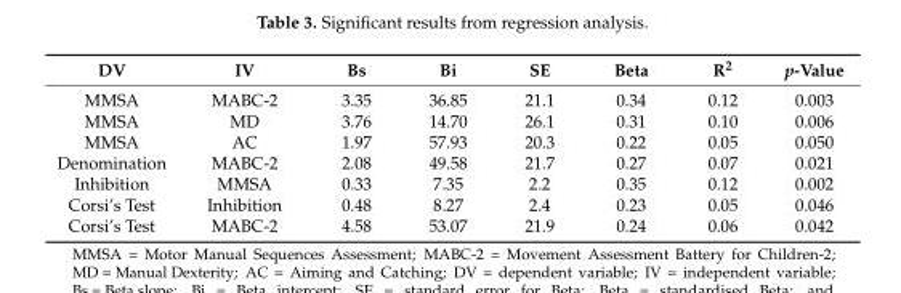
<table><thead><tr><td>DV</td><td>IV</td><td>Bs</td><td>Bi</td><td>SE</td><td>Beta</td><td>R<sup>2</sup></td><td>p-Value</td></tr></thead><tbody><tr><td>MMSA</td><td>MABC-2</td><td>3.35</td><td>36.85</td><td>21.1</td><td>0.34</td><td>0.12</td><td>0.003</td></tr><tr><td>MMSA</td><td>MD</td><td>3.76</td><td>14.70</td><td>26.1</td><td>0.31</td><td>0.10</td><td>0.006</td></tr><tr><td>MMSA</td><td>AC</td><td>1.97</td><td>57.93</td><td>20.3</td><td>0.22</td><td>0.05</td><td>0.050</td></tr><tr><td>Denomination</td><td>MABC-2</td><td>2.08</td><td>49.58</td><td>21.7</td><td>0.27</td><td>0.07</td><td>0.021</td></tr><tr><td>Inhibition</td><td>MMSA</td><td>0.33</td><td>7.35</td><td>2.2</td><td>0.35</td><td>0.12</td><td>0.002</td></tr><tr><td>Corsi’s Test</td><td>Inhibition</td><td>0.48</td><td>8.27</td><td>2.4</td><td>0.23</td><td>0.05</td><td>0.046</td></tr><tr><td>Corsi’s Test</td><td>MABC-2</td><td>4.58</td><td>53.07</td><td>21.9</td><td>0.24</td><td>0.06</td><td>0.042</td></tr></tbody></table>